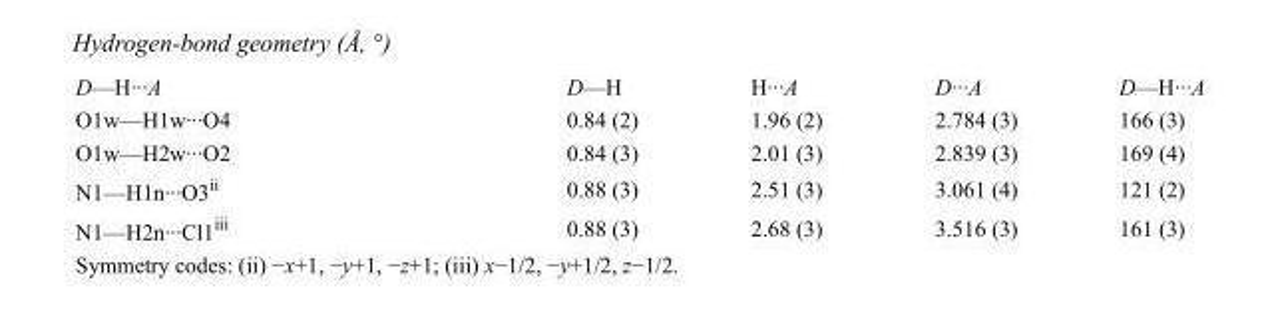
<table><tbody><tr><td>D—H···A</td><td>D—H</td><td>H···A</td><td>D···A</td><td>D—H···A</td></tr><tr><td>O1w—H1w···O4</td><td>0.84 (2)</td><td>1.96 (2)</td><td>2.784 (3)</td><td>166 (3)</td></tr><tr><td>O1w—H2w···O2</td><td>0.84 (3)</td><td>2.01 (3)</td><td>2.839 (3)</td><td>169 (4)</td></tr><tr><td>N1—H1n···O3<sup>ii</sup></td><td>0.88 (3)</td><td>2.51 (3)</td><td>3.061 (4)</td><td>121 (2)</td></tr><tr><td>N1—H2n···Cl1<sup>iii</sup></td><td>0.88 (3)</td><td>2.68 (3)</td><td>3.516 (3)</td><td>161 (3)</td></tr></tbody></table>